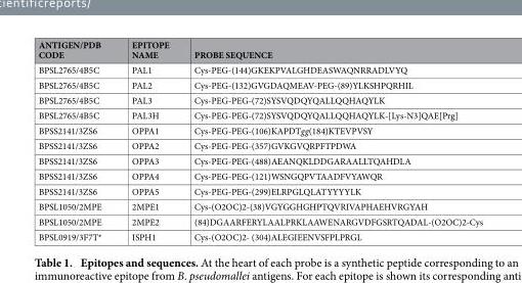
<table><thead><tr><td>ANTIGEN/PDB CODE</td><td>EPITOPE NAME</td><td>PROBE SEQUENCE</td></tr></thead><tbody><tr><td>BPSL2765/4B5C</td><td>PAL1</td><td>Cys-PEG-(144)GKEKPVALGHDEASWAQNRRADLVYQ</td></tr><tr><td>BPSL2765/4B5C</td><td>PAL2</td><td>Cys-PEG-(132)GVGDAQMEAV-PEG-(89)YLKSHPQRHIL</td></tr><tr><td>BPSL2765/4B5C</td><td>PAL3</td><td>Cys-PEG-PEG-(72)SYSVQDQYQALLQQHAQYLK</td></tr><tr><td>BPSL2765/4B5C</td><td>PAL3H</td><td>Cys-PEG-PEG-(72)SYSVQDQYQALLQQHAQYLK-[Lys-N3]QAE[Prg]</td></tr><tr><td>BPSS2141/3ZS6</td><td>OPPA1</td><td>Cys-PEG-PEG-(106)KAPDTgg(184)KTEVPVSY</td></tr><tr><td>BPSS2141/3ZS6</td><td>OPPA2</td><td>Cys-PEG-PEG-(357)GVKGVQRPFTPDWA</td></tr><tr><td>BPSS2141/3ZS6</td><td>OPPA3</td><td>Cys-PEG-PEG-(488)AEANQKLDDGARAALLTQAHDLA</td></tr><tr><td>BPSS2141/3ZS6</td><td>OPPA4</td><td>Cys-PEG-PEG-(121)WSNGQPVTAADFVYAWQR</td></tr><tr><td>BPSS2141/3ZS6</td><td>OPPA5</td><td>Cys-PEG-PEG-(299)ELRPGLQLATYYYYLK</td></tr><tr><td>BPSL1050/2MPE</td><td>2MPE1</td><td>Cys-(O2OC)2-(38)VGYGGHGHPTQVRIVAPHAEHVRGYAH</td></tr><tr><td>BPSL1050/2MPE</td><td>2MPE2</td><td>(84)DGAARFERYLAALPRKLAAWENARGVDFGSRTQADAL-(O2OC)2-Cys</td></tr><tr><td>BPSL0919/3F7T*</td><td>ISPH1</td><td>Cys-(O2OC)2- (304)ALEGIEENVSFPLPRGL</td></tr></tbody></table>